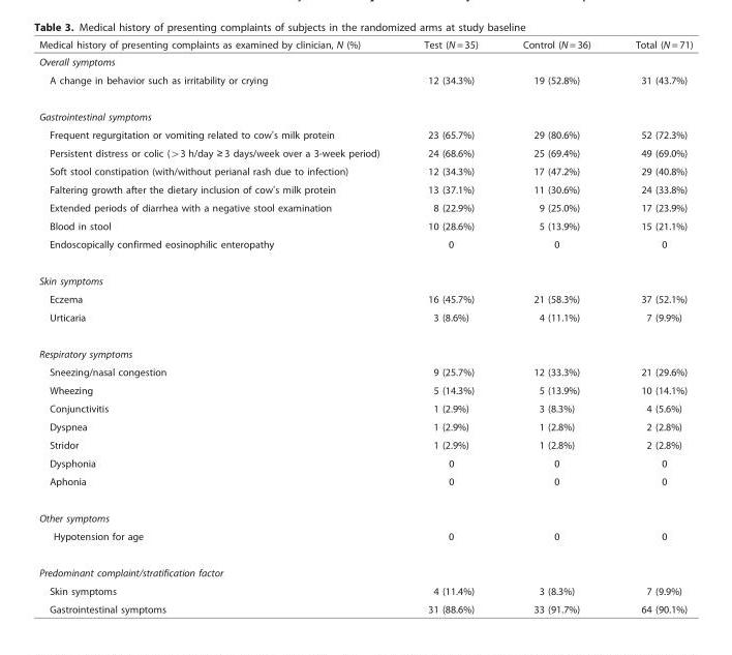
<table><thead><tr><td>Medical history of presenting complaints as examined by clinician, N (%)</td><td>Test (N = 35)</td><td>Control (N = 36)</td><td>Total (N = 71)</td></tr></thead><tbody><tr><td colspan="4">Overall symptoms</td></tr><tr><td>A change in behavior such as irritability or crying</td><td>12 (34.3%)</td><td>19 (52.8%)</td><td>31 (43.7%)</td></tr><tr><td colspan="4">Gastrointestinal symptoms</td></tr><tr><td>Frequent regurgitation or vomiting related to cow’s milk protein</td><td>23 (65.7%)</td><td>29 (80.6%)</td><td>52 (72.3%)</td></tr><tr><td>Persistent distress or colic (&gt;3 h/day ≥ 3 days/week over a 3-week period)</td><td>24 (68.6%)</td><td>25 (69.4%)</td><td>49 (69.0%)</td></tr><tr><td>Soft stool constipation (with/without perianal rash due to infection)</td><td>12 (34.3%)</td><td>17 (47.2%)</td><td>29 (40.8%)</td></tr><tr><td>Faltering growth after the dietary inclusion of cow’s milk protein</td><td>13 (37.1%)</td><td>11 (30.6%)</td><td>24 (33.8%)</td></tr><tr><td>Extended periods of diarrhea with a negative stool examination</td><td>8 (22.9%)</td><td>9 (25.0%)</td><td>17 (23.9%)</td></tr><tr><td>Blood in stool</td><td>10 (28.6%)</td><td>5 (13.9%)</td><td>15 (21.1%)</td></tr><tr><td>Endoscopically confirmed eosinophilic enteropathy</td><td>0</td><td>0</td><td>0</td></tr><tr><td colspan="4">Skin symptoms</td></tr><tr><td>Eczema</td><td>16 (45.7%)</td><td>21 (58.3%)</td><td>37 (52.1%)</td></tr><tr><td>Urticaria</td><td>3 (8.6%)</td><td>4 (11.1%)</td><td>7 (9.9%)</td></tr><tr><td colspan="4">Respiratory symptoms</td></tr><tr><td>Sneezing/nasal congestion</td><td>9 (25.7%)</td><td>12 (33.3%)</td><td>21 (29.6%)</td></tr><tr><td>Wheezing</td><td>5 (14.3%)</td><td>5 (13.9%)</td><td>10 (14.1%)</td></tr><tr><td>Conjunctivitis</td><td>1 (2.9%)</td><td>3 (8.3%)</td><td>4 (5.6%)</td></tr><tr><td>Dyspnea</td><td>1 (2.9%)</td><td>1 (2.8%)</td><td>2 (2.8%)</td></tr><tr><td>Stridor</td><td>1 (2.9%)</td><td>1 (2.8%)</td><td>2 (2.8%)</td></tr><tr><td>Dysphonia</td><td>0</td><td>0</td><td>0</td></tr><tr><td>Aphonia</td><td>0</td><td>0</td><td>0</td></tr><tr><td colspan="4">Other symptoms</td></tr><tr><td>Hypotension for age</td><td>0</td><td>0</td><td>0</td></tr><tr><td colspan="4">Predominant complaint/stratification factor</td></tr><tr><td>Skin symptoms</td><td>4 (11.4%)</td><td>3 (8.3%)</td><td>7 (9.9%)</td></tr><tr><td>Gastrointestinal symptoms</td><td>31 (88.6%)</td><td>33 (91.7%)</td><td>64 (90.1%)</td></tr></tbody></table>